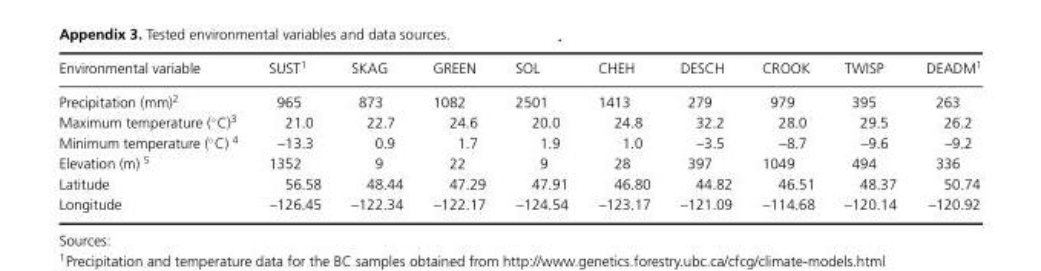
<table><thead><tr><td>Environmental variable</td><td>SUST<sup>1</sup></td><td>SKAG</td><td>GREEN</td><td>SOL</td><td>CHEH</td><td>DESCH</td><td>CROOK</td><td>TWISP</td><td>DEADM<sup>1</sup></td></tr></thead><tbody><tr><td>Precipitation (mm)<sup>2</sup></td><td>965</td><td>873</td><td>1082</td><td>2501</td><td>1413</td><td>279</td><td>979</td><td>395</td><td>263</td></tr><tr><td>Maximum temperature (◦C)3</td><td>21.0</td><td>22.7</td><td>24.6</td><td>20.0</td><td>24.8</td><td>32.2</td><td>28.0</td><td>29.5</td><td>26.2</td></tr><tr><td>Minimum temperature (◦C) 4</td><td>–13.3</td><td>0.9</td><td>1.7</td><td>1.9</td><td>1.0</td><td>–3.5</td><td>–8.7</td><td>–9.6</td><td>–9.2</td></tr><tr><td>Elevation (m) 5</td><td>1352</td><td>9</td><td>22</td><td>9</td><td>28</td><td>397</td><td>1049</td><td>494</td><td>336</td></tr><tr><td>Latitude</td><td>56.58</td><td>48.44</td><td>47.29</td><td>47.91</td><td>46.80</td><td>44.82</td><td>46.51</td><td>48.37</td><td>50.74</td></tr><tr><td>Longitude</td><td>–126.45</td><td>–122.34</td><td>–122.17</td><td>–124.54</td><td>–123.17</td><td>–121.09</td><td>–114.68</td><td>–120.14</td><td>–120.92</td></tr></tbody></table>